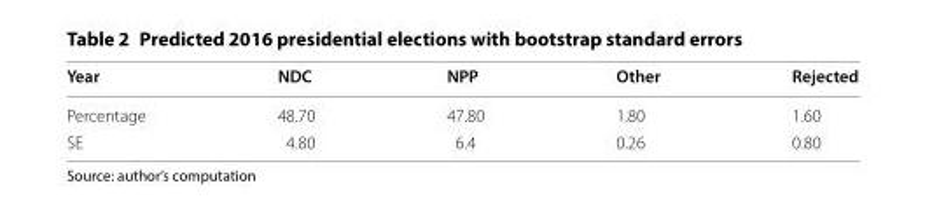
<table><thead><tr><td>Year</td><td>NDC</td><td>NPP</td><td>Other</td><td>Rejected</td></tr></thead><tbody><tr><td>Percentage</td><td>48.70</td><td>47.80</td><td>1.80</td><td>1.60</td></tr><tr><td>SE</td><td>4.80</td><td>6.4</td><td>0.26</td><td>0.80</td></tr></tbody></table>